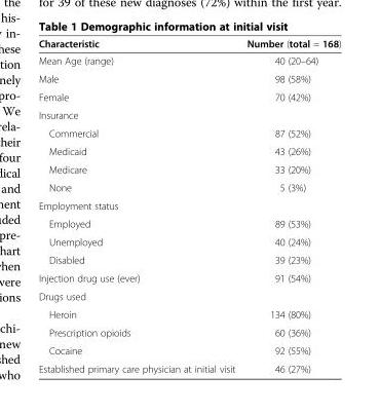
<table><thead><tr><td>Characteristic</td><td>Number (total = 168)</td></tr></thead><tbody><tr><td>Mean Age (range)</td><td>40 (20–64)</td></tr><tr><td>Male</td><td>98 (58%)</td></tr><tr><td>Female</td><td>70 (42%)</td></tr><tr><td colspan="2">Insurance</td></tr><tr><td>Commercial</td><td>87 (52%)</td></tr><tr><td>Medicaid</td><td>43 (26%)</td></tr><tr><td>Medicare</td><td>33 (20%)</td></tr><tr><td>None</td><td>5 (3%)</td></tr><tr><td colspan="2">Employment status</td></tr><tr><td>Employed</td><td>89 (53%)</td></tr><tr><td>Unemployed</td><td>40 (24%)</td></tr><tr><td>Disabled</td><td>39 (23%)</td></tr><tr><td>Injection drug use (ever)</td><td>91 (54%)</td></tr><tr><td colspan="2">Drugs used</td></tr><tr><td>Heroin</td><td>134 (80%)</td></tr><tr><td>Prescription opioids</td><td>60 (36%)</td></tr><tr><td>Cocaine</td><td>92 (55%)</td></tr><tr><td>Established primary care physician at initial visit</td><td>46 (27%)</td></tr></tbody></table>